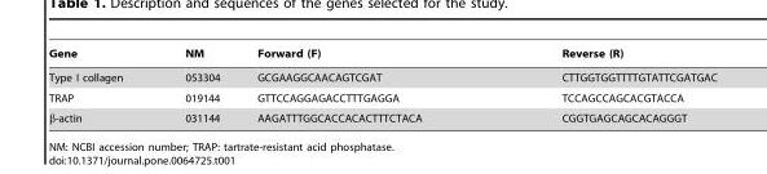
<table><thead><tr><td>Gene</td><td>NM</td><td>Forward (F)</td><td>Reverse (R)</td></tr></thead><tbody><tr><td>Type I collagen</td><td>053304</td><td>GCGAAGGCAACAGTCGAT</td><td>CTTGGTGGTTTTGTATTCGATGAC</td></tr><tr><td>TRAP</td><td>019144</td><td>GTTCCAGGAGACCTTTGAGGA</td><td>TCCAGCCAGCACGTACCA</td></tr><tr><td>β-actin</td><td>031144</td><td>AAGATTTGGCACCACACTTTCTACA</td><td>CGGTGAGCAGCACAGGGT</td></tr></tbody></table>